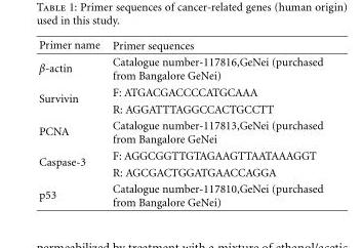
<table><thead><tr><td>Primer name</td><td>Primer sequences</td></tr></thead><tbody><tr><td>β-actin</td><td>Catalogue number-117816,GeNei (purchased from Bangalore GeNei)</td></tr><tr><td rowspan="2">Survivin</td><td>F: ATGACGACCCCATGCAAA</td></tr><tr><td>R: AGGATTTAGGCCACTGCCTT</td></tr><tr><td>PCNA</td><td>Catalogue number-117813,GeNei (purchased from Bangalore GeNei</td></tr><tr><td rowspan="2">Caspase-3</td><td>F: AGGCGGTTGTAGAAGTTAATAAAGGT</td></tr><tr><td>R: AGCGACTGGATGAACCAGGA</td></tr><tr><td>p53</td><td>Catalogue number-117810,GeNei (purchased from Bangalore GeNei)</td></tr></tbody></table>